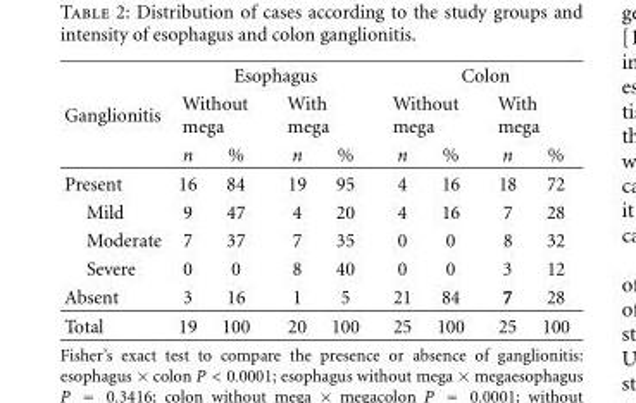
<table><thead><tr><td rowspan="3">Ganglionitis</td><td colspan="4">Esophagus</td><td colspan="4">Colon</td></tr><tr><td colspan="2">Without mega</td><td colspan="2">With mega</td><td colspan="2">Without mega</td><td colspan="2">With mega</td></tr><tr><td>n</td><td>%</td><td>n</td><td>%</td><td>n</td><td>%</td><td>n</td><td>%</td></tr></thead><tbody><tr><td>Present</td><td>16</td><td>84</td><td>19</td><td>95</td><td>4</td><td>16</td><td>18</td><td>72</td></tr><tr><td>Mild</td><td>9</td><td>47</td><td>4</td><td>20</td><td>4</td><td>16</td><td>7</td><td>28</td></tr><tr><td>Moderate</td><td>7</td><td>37</td><td>7</td><td>35</td><td>0</td><td>0</td><td>8</td><td>32</td></tr><tr><td>Severe</td><td>0</td><td>0</td><td>8</td><td>40</td><td>0</td><td>0</td><td>3</td><td>12</td></tr><tr><td>Absent</td><td>3</td><td>16</td><td>1</td><td>5</td><td>21</td><td>84</td><td>7</td><td>28</td></tr><tr><td>Total</td><td>19</td><td>100</td><td>20</td><td>100</td><td>25</td><td>100</td><td>25</td><td>100</td></tr></tbody></table>